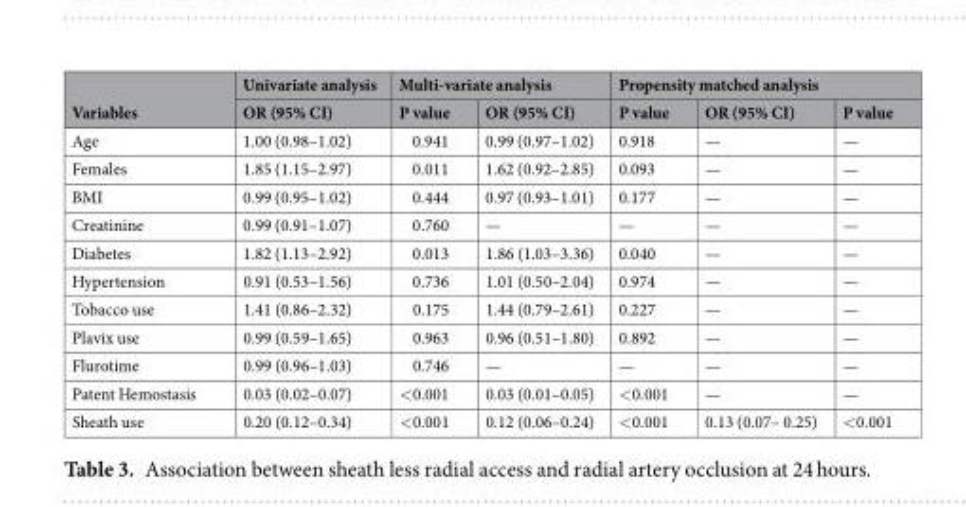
<table><thead><tr><td rowspan="2">Variables</td><td rowspan="2">Univariate analysis OR (95% CI)</td><td colspan="2">Multi-variate analysis</td><td colspan="3">Propensity matched analysis</td></tr><tr><td>P value</td><td>OR (95% CI)</td><td>P value</td><td>OR (95% CI)</td><td>P value</td></tr></thead><tbody><tr><td>Age</td><td>1.00 (0.98–1.02)</td><td>0.941</td><td>0.99 (0.97–1.02)</td><td>0.918</td><td>—</td><td>—</td></tr><tr><td>Females</td><td>1.85 (1.15–2.97)</td><td>0.011</td><td>1.62 (0.92–2.85)</td><td>0.093</td><td>—</td><td>—</td></tr><tr><td>BMI</td><td>0.99 (0.95–1.02)</td><td>0.444</td><td>0.97 (0.93–1.01)</td><td>0.177</td><td>—</td><td>—</td></tr><tr><td>Creatinine</td><td>0.99 (0.91–1.07)</td><td>0.760</td><td>—</td><td>—</td><td>—</td><td>—</td></tr><tr><td>Diabetes</td><td>1.82 (1.13–2.92)</td><td>0.013</td><td>1.86 (1.03–3.36)</td><td>0.040</td><td>—</td><td>—</td></tr><tr><td>Hypertension</td><td>0.91 (0.53–1.56)</td><td>0.736</td><td>1.01 (0.50–2.04)</td><td>0.974</td><td>—</td><td>—</td></tr><tr><td>Tobacco use</td><td>1.41 (0.86–2.32)</td><td>0.175</td><td>1.44 (0.79–2.61)</td><td>0.227</td><td>—</td><td>—</td></tr><tr><td>Plavix use</td><td>0.99 (0.59–1.65)</td><td>0.963</td><td>0.96 (0.51–1.80)</td><td>0.892</td><td>—</td><td>—</td></tr><tr><td>Flurotime</td><td>0.99 (0.96–1.03)</td><td>0.746</td><td>—</td><td>—</td><td>—</td><td>—</td></tr><tr><td>Patent Hemostasis</td><td>0.03 (0.02–0.07)</td><td>&lt;0.001</td><td>0.03 (0.01–0.05)</td><td>&lt;0.001</td><td>—</td><td>—</td></tr><tr><td>Sheath use</td><td>0.20 (0.12–0.34)</td><td>&lt;0.001</td><td>0.12 (0.06–0.24)</td><td>&lt;0.001</td><td>0.13 (0.07– 0.25)</td><td>&lt;0.001</td></tr></tbody></table>